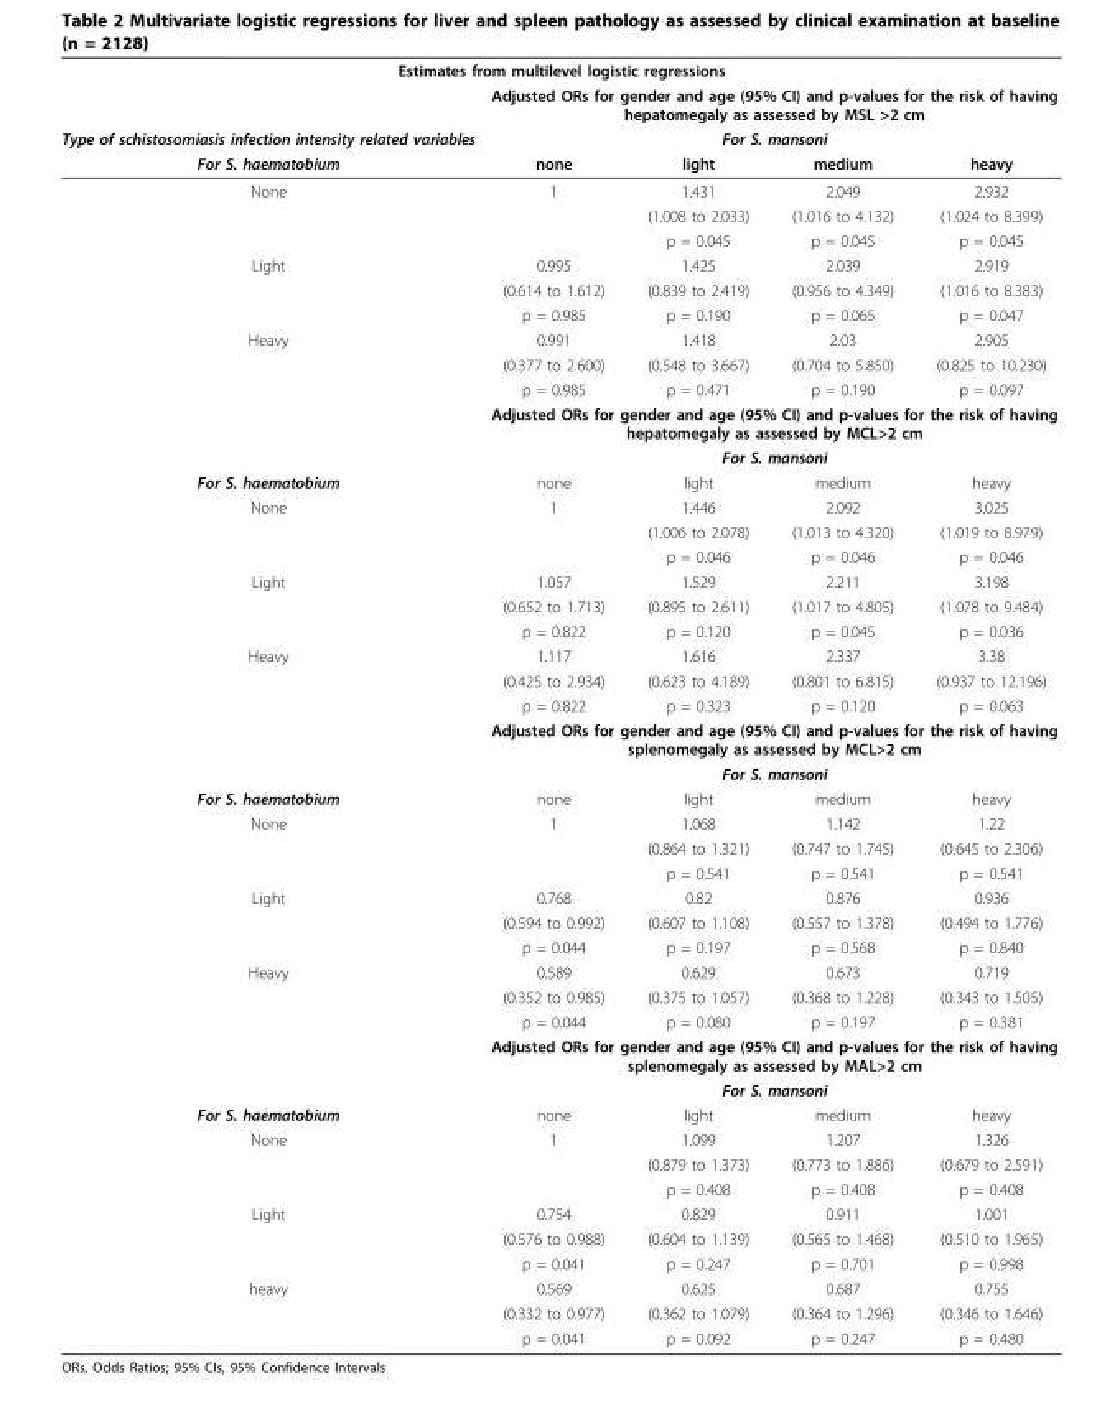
<table><thead><tr><td colspan="5">Estimates from multilevel logistic regressions</td></tr><tr><td rowspan="3">Type of schistosomiasis infection intensity related variables For S. haematobium</td><td rowspan="2" colspan="4">Adjusted ORs for gender and age (95% CI) and p-values for the risk of having hepatomegaly as assessed by MSL &gt;2 cm For S. mansoni</td></tr><tr></tr><tr><td>none</td><td>light</td><td>medium</td><td>heavy</td></tr></thead><tbody><tr><td rowspan="3">None</td><td>1</td><td>1.431</td><td>2.049</td><td>2.932</td></tr><tr><td></td><td>(1.008 to 2.033)</td><td>(1.016 to 4.132)</td><td>(1.024 to 8.399)</td></tr><tr><td></td><td>p = 0.045</td><td>p = 0.045</td><td>p = 0.045</td></tr><tr><td rowspan="3">Light</td><td>0.995</td><td>1.425</td><td>2.039</td><td>2.919</td></tr><tr><td>(0.614 to 1.612)</td><td>(0.839 to 2.419)</td><td>(0.956 to 4.349)</td><td>(1.016 to 8.383)</td></tr><tr><td>p = 0.985</td><td>p = 0.190</td><td>p = 0.065</td><td>p = 0.047</td></tr><tr><td rowspan="5">Heavy</td><td>0.991</td><td>1.418</td><td>2.03</td><td>2.905</td></tr><tr><td>(0.377 to 2.600)</td><td>(0.548 to 3.667)</td><td>(0.704 to 5.850)</td><td>(0.825 to 10.230)</td></tr><tr><td>p = 0.985</td><td>p = 0.471</td><td>p = 0.190</td><td>p = 0.097</td></tr><tr><td colspan="4">Adjusted ORs for gender and age (95% CI) and p-values for the risk of having hepatomegaly as assessed by MCL&gt;2 cm</td></tr><tr><td colspan="4">For S. mansoni</td></tr><tr><td>For S. haematobium</td><td>none</td><td>light</td><td>medium</td><td>heavy</td></tr><tr><td rowspan="3">None</td><td>1</td><td>1.446</td><td>2.092</td><td>3.025</td></tr><tr><td></td><td>(1.006 to 2.078)</td><td>(1.013 to 4.320)</td><td>(1.019 to 8.979)</td></tr><tr><td></td><td>p = 0.046</td><td>p = 0.046</td><td>p = 0.046</td></tr><tr><td rowspan="3">Light</td><td>1.057</td><td>1.529</td><td>2.211</td><td>3.198</td></tr><tr><td>(0.652 to 1.713)</td><td>(0.895 to 2.611)</td><td>(1.017 to 4.805)</td><td>(1.078 to 9.484)</td></tr><tr><td>p = 0.822</td><td>p = 0.120</td><td>p = 0.045</td><td>p = 0.036</td></tr><tr><td rowspan="5">Heavy</td><td>1.117</td><td>1.616</td><td>2.337</td><td>3.38</td></tr><tr><td>(0.425 to 2.934)</td><td>(0.623 to 4.189)</td><td>(0.801 to 6.815)</td><td>(0.937 to 12.196)</td></tr><tr><td>p = 0.822</td><td>p = 0.323</td><td>p = 0.120</td><td>p = 0.063</td></tr><tr><td colspan="4">Adjusted ORs for gender and age (95% CI) and p-values for the risk of having splenomegaly as assessed by MCL&gt;2 cm</td></tr><tr><td colspan="4">For S. mansoni</td></tr><tr><td>For S. haematobium</td><td>none</td><td>light</td><td>medium</td><td>heavy</td></tr><tr><td rowspan="3">None</td><td>1</td><td>1.068</td><td>1.142</td><td>1.22</td></tr><tr><td></td><td>(0.864 to 1.321)</td><td>(0.747 to 1.745)</td><td>(0.645 to 2.306)</td></tr><tr><td></td><td>p = 0.541</td><td>p = 0.541</td><td>p = 0.541</td></tr><tr><td rowspan="3">Light</td><td>0.768</td><td>0.82</td><td>0.876</td><td>0.936</td></tr><tr><td>(0.594 to 0.992)</td><td>(0.607 to 1.108)</td><td>(0.557 to 1.378)</td><td>(0.494 to 1.776)</td></tr><tr><td>p = 0.044</td><td>p = 0.197</td><td>p = 0.568</td><td>p = 0.840</td></tr><tr><td rowspan="5">Heavy</td><td>0.589</td><td>0.629</td><td>0.673</td><td>0.719</td></tr><tr><td>(0.352 to 0.985)</td><td>(0.375 to 1.057)</td><td>(0.368 to 1.228)</td><td>(0.343 to 1.505)</td></tr><tr><td>p = 0.044</td><td>p = 0.080</td><td>p = 0.197</td><td>p = 0.381</td></tr><tr><td colspan="4">Adjusted ORs for gender and age (95% CI) and p-values for the risk of having splenomegaly as assessed by MAL&gt;2 cm</td></tr><tr><td colspan="4">For S. mansoni</td></tr><tr><td>For S. haematobium</td><td>none</td><td>light</td><td>medium</td><td>heavy</td></tr><tr><td rowspan="3">None</td><td>1</td><td>1.099</td><td>1.207</td><td>1.326</td></tr><tr><td></td><td>(0.879 to 1.373)</td><td>(0.773 to 1.886)</td><td>(0.679 to 2.591)</td></tr><tr><td></td><td>p = 0.408</td><td>p = 0.408</td><td>p = 0.408</td></tr><tr><td rowspan="3">Light</td><td>0.754</td><td>0.829</td><td>0.911</td><td>1.001</td></tr><tr><td>(0.576 to 0.988)</td><td>(0.604 to 1.139)</td><td>(0.565 to 1.468)</td><td>(0.510 to 1.965)</td></tr><tr><td>p = 0.041</td><td>p = 0.247</td><td>p = 0.701</td><td>p = 0.998</td></tr><tr><td rowspan="3">heavy</td><td>0.569</td><td>0.625</td><td>0.687</td><td>0.755</td></tr><tr><td>(0.332 to 0.977)</td><td>(0.362 to 1.079)</td><td>(0.364 to 1.296)</td><td>(0.346 to 1.646)</td></tr><tr><td>p = 0.041</td><td>p = 0.092</td><td>p = 0.247</td><td>p = 0.480</td></tr></tbody></table>